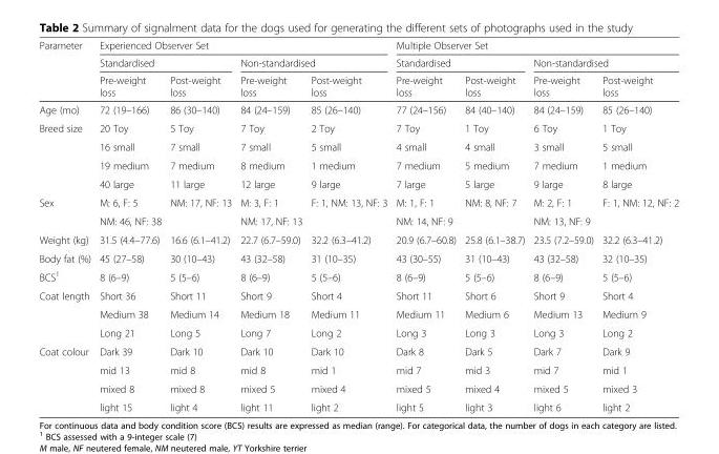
<table><thead><tr><td rowspan="3">Parameter</td><td colspan="4">Experienced Observer Set</td><td colspan="4">Multiple Observer Set</td></tr><tr><td colspan="2">Standardised</td><td colspan="2">Non-standardised</td><td colspan="2">Standardised</td><td colspan="2">Non-standardised</td></tr><tr><td>Pre-weight loss</td><td>Post-weight loss</td><td>Pre-weight loss</td><td>Post-weight loss</td><td>Pre-weight loss</td><td>Post-weight loss</td><td>Pre-weight loss</td><td>Post-weight loss</td></tr></thead><tbody><tr><td>Age (mo)</td><td>72 (19–166)</td><td>86 (30–140)</td><td>84 (24–159)</td><td>85 (26–140)</td><td>77 (24–156)</td><td>84 (40–140)</td><td>84 (24–159)</td><td>85 (26–140)</td></tr><tr><td rowspan="4">Breed size</td><td>20 Toy</td><td>5 Toy</td><td>7 Toy</td><td>2 Toy</td><td>7 Toy</td><td>1 Toy</td><td>6 Toy</td><td>1 Toy</td></tr><tr><td>16 small</td><td>7 small</td><td>7 small</td><td>5 small</td><td>4 small</td><td>4 small</td><td>3 small</td><td>5 small</td></tr><tr><td>19 medium</td><td>7 medium</td><td>8 medium</td><td>1 medium</td><td>7 medium</td><td>5 medium</td><td>7 medium</td><td>1 medium</td></tr><tr><td>40 large</td><td>11 large</td><td>12 large</td><td>9 large</td><td>7 large</td><td>5 large</td><td>9 large</td><td>8 large</td></tr><tr><td rowspan="2">Sex</td><td>M: 6, F: 5</td><td rowspan="2">NM: 17, NF: 13</td><td>M: 3, F: 1</td><td rowspan="2">F: 1, NM: 13, NF: 3</td><td>M: 1, F: 1</td><td rowspan="2">NM: 8, NF: 7</td><td>M: 2, F: 1</td><td rowspan="2">F: 1, NM: 12, NF: 2</td></tr><tr><td>NM: 46, NF: 38</td><td>NM: 17, NF: 13</td><td>NM: 14, NF: 9</td><td>NM: 13, NF: 9</td></tr><tr><td>Weight (kg)</td><td>31.5 (4.4–77.6)</td><td>16.6 (6.1–41.2)</td><td>22.7 (6.7–59.0)</td><td>32.2 (6.3–41.2)</td><td>20.9 (6.7–60.8)</td><td>25.8 (6.1–38.7)</td><td>23.5 (7.2–59.0)</td><td>32.2 (6.3–41.2)</td></tr><tr><td>Body fat (%)</td><td>45 (27–58)</td><td>30 (10–43)</td><td>43 (32–58)</td><td>31 (10–35)</td><td>43 (30–55)</td><td>31 (10–43)</td><td>43 (32–58)</td><td>32 (10–35)</td></tr><tr><td>BCS<sup>1</sup></td><td>8 (6–9)</td><td>5 (5–6)</td><td>8 (6–9)</td><td>5 (5–6)</td><td>8 (6–9)</td><td>5 (5–6)</td><td>8 (6–9)</td><td>5 (5–6)</td></tr><tr><td rowspan="3">Coat length</td><td>Short 36</td><td>Short 11</td><td>Short 9</td><td>Short 4</td><td>Short 11</td><td>Short 6</td><td>Short 9</td><td>Short 4</td></tr><tr><td>Medium 38</td><td>Medium 14</td><td>Medium 18</td><td>Medium 11</td><td>Medium 11</td><td>Medium 6</td><td>Medium 13</td><td>Medium 9</td></tr><tr><td>Long 21</td><td>Long 5</td><td>Long 7</td><td>Long 2</td><td>Long 3</td><td>Long 3</td><td>Long 3</td><td>Long 2</td></tr><tr><td rowspan="4">Coat colour</td><td>Dark 39</td><td>Dark 10</td><td>Dark 10</td><td>Dark 10</td><td>Dark 8</td><td>Dark 5</td><td>Dark 7</td><td>Dark 9</td></tr><tr><td>mid 13</td><td>mid 8</td><td>mid 8</td><td>mid 1</td><td>mid 7</td><td>mid 3</td><td>mid 7</td><td>mid 1</td></tr><tr><td>mixed 8</td><td>mixed 8</td><td>mixed 5</td><td>mixed 4</td><td>mixed 5</td><td>mixed 4</td><td>mixed 5</td><td>mixed 3</td></tr><tr><td>light 15</td><td>light 4</td><td>light 11</td><td>light 2</td><td>light 5</td><td>light 3</td><td>light 6</td><td>light 2</td></tr></tbody></table>